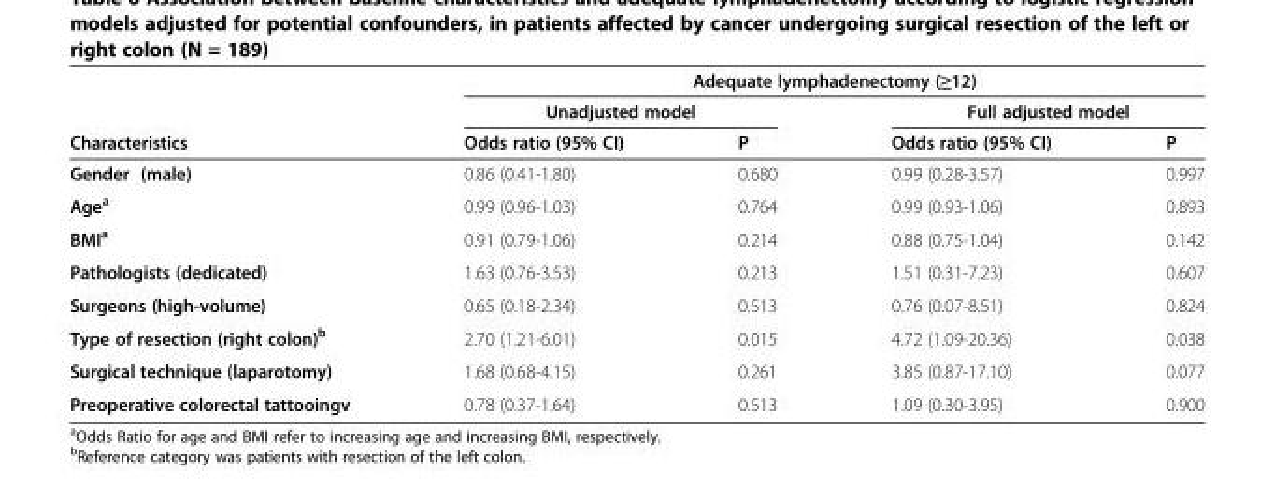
<table><thead><tr><td rowspan="3">Characteristics</td><td colspan="4">Adequate lymphadenectomy (≥12)</td></tr><tr><td colspan="2">Unadjusted model</td><td colspan="2">Full adjusted model</td></tr><tr><td>Odds ratio (95% CI)</td><td>P</td><td>Odds ratio (95% CI)</td><td>P</td></tr></thead><tbody><tr><td>Gender (male)</td><td>0.86 (0.41-1.80)</td><td>0.680</td><td>0.99 (0.28-3.57)</td><td>0.997</td></tr><tr><td>Age<sup>a</sup></td><td>0.99 (0.96-1.03)</td><td>0.764</td><td>0.99 (0.93-1.06)</td><td>0.893</td></tr><tr><td>BMI<sup>a</sup></td><td>0.91 (0.79-1.06)</td><td>0.214</td><td>0.88 (0.75-1.04)</td><td>0.142</td></tr><tr><td>Pathologists (dedicated)</td><td>1.63 (0.76-3.53)</td><td>0.213</td><td>1.51 (0.31-7.23)</td><td>0.607</td></tr><tr><td>Surgeons (high-volume)</td><td>0.65 (0.18-2.34)</td><td>0.513</td><td>0.76 (0.07-8.51)</td><td>0.824</td></tr><tr><td>Type of resection (right colon)<sup>b</sup></td><td>2.70 (1.21-6.01)</td><td>0.015</td><td>4.72 (1.09-20.36)</td><td>0.038</td></tr><tr><td>Surgical technique (laparotomy)</td><td>1.68 (0.68-4.15)</td><td>0.261</td><td>3.85 (0.87-17.10)</td><td>0.077</td></tr><tr><td>Preoperative colorectal tattooingv</td><td>0.78 (0.37-1.64)</td><td>0.513</td><td>1.09 (0.30-3.95)</td><td>0.900</td></tr></tbody></table>